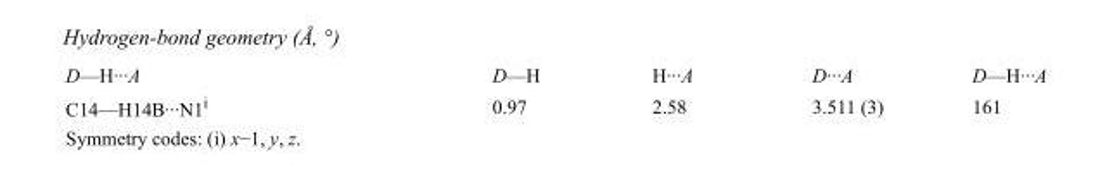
<table><tbody><tr><td>D—H···A</td><td>D—H</td><td>H···A</td><td>D···A</td><td>D—H···A</td></tr><tr><td>C14—H14B···N1<sup>i</sup></td><td>0.97</td><td>2.58</td><td>3.511 (3)</td><td>161</td></tr></tbody></table>